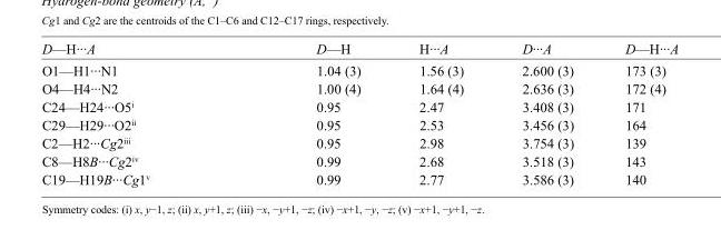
<table><tbody><tr><td>D—H···A</td><td>D—H</td><td>H···A</td><td>D···A</td><td>D—H···A</td></tr><tr><td>O1—H1···N1</td><td>1.04 (3)</td><td>1.56 (3)</td><td>2.600 (3)</td><td>173 (3)</td></tr><tr><td>O4—H4···N2</td><td>1.00 (4)</td><td>1.64 (4)</td><td>2.636 (3)</td><td>172 (4)</td></tr><tr><td>C24—H24···O5<sup>i</sup></td><td>0.95</td><td>2.47</td><td>3.408 (3)</td><td>171</td></tr><tr><td>C29—H29···O2<sup>ii</sup></td><td>0.95</td><td>2.53</td><td>3.456 (3)</td><td>164</td></tr><tr><td>C2—H2···Cg2<sup>iii</sup></td><td>0.95</td><td>2.98</td><td>3.754 (3)</td><td>139</td></tr><tr><td>C8—H8B···Cg2<sup>iv</sup></td><td>0.99</td><td>2.68</td><td>3.518 (3)</td><td>143</td></tr><tr><td>C19—H19B···Cg1<sup>v</sup></td><td>0.99</td><td>2.77</td><td>3.586 (3)</td><td>140</td></tr></tbody></table>